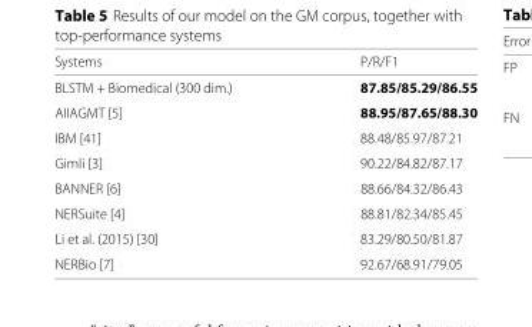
<table><thead><tr><td>Systems</td><td>P/R/F1</td></tr></thead><tbody><tr><td>BLSTM + Biomedical (300 dim.)</td><td>87.85/85.29/86.55</td></tr><tr><td>AIIAGMT [5]</td><td>88.95/87.65/88.30</td></tr><tr><td>IBM [41]</td><td>88.48/85.97/87.21</td></tr><tr><td>Gimli [3]</td><td>90.22/84.82/87.17</td></tr><tr><td>BANNER [6]</td><td>88.66/84.32/86.43</td></tr><tr><td>NERSuite [4]</td><td>88.81/82.34/85.45</td></tr><tr><td>Li et al. (2015) [30]</td><td>83.29/80.50/81.87</td></tr><tr><td>NERBio [7]</td><td>92.67/68.91/79.05</td></tr></tbody></table>